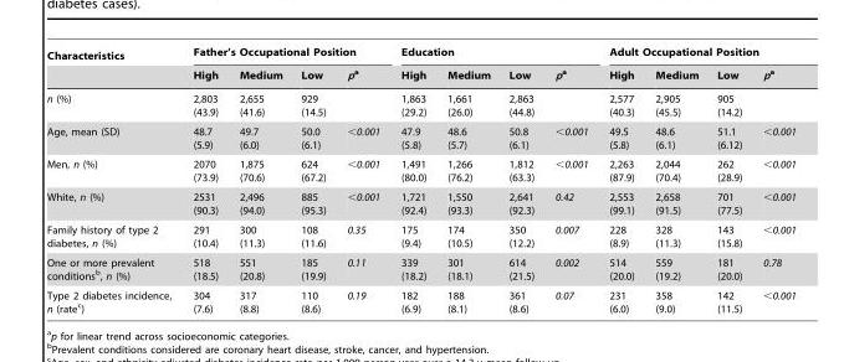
<table><thead><tr><td rowspan="2">Characteristics</td><td colspan="4">Father’s Occupational Position</td><td colspan="4">Education</td><td colspan="4">Adult Occupational Position</td></tr><tr><td>High</td><td>Medium</td><td>Low</td><td>pa</td><td>High</td><td>Medium</td><td>Low</td><td>pa</td><td>High</td><td>Medium</td><td>Low</td><td>pa</td></tr></thead><tbody><tr><td>n (%)</td><td>2,803 (43.9)</td><td>2,655 (41.6)</td><td>929 (14.5)</td><td></td><td>1,863 (29.2)</td><td>1,661 (26.0)</td><td>2,863 (44.8)</td><td></td><td>2,577 (40.3)</td><td>2,905 (45.5)</td><td>905 (14.2)</td><td></td></tr><tr><td>Age, mean (SD)</td><td>48.7 (5.9)</td><td>49.7 (6.0)</td><td>50.0 (6.1)</td><td>&lt;0.001</td><td>47.9 (5.8)</td><td>48.6 (5.7)</td><td>50.8 (6.1)</td><td>&lt;0.001</td><td>49.5 (5.8)</td><td>48.6 (6.1)</td><td>51.1 (6.12)</td><td>&lt;0.001</td></tr><tr><td>Men, n (%)</td><td>2070 (73.9)</td><td>1,875 (70.6)</td><td>624 (67.2)</td><td>&lt;0.001</td><td>1,491 (80.0)</td><td>1,266 (76.2)</td><td>1,812 (63.3)</td><td>&lt;0.001</td><td>2,263 (87.9)</td><td>2,044 (70.4)</td><td>262 (28.9)</td><td>&lt;0.001</td></tr><tr><td>White, n (%)</td><td>2531 (90.3)</td><td>2,496 (94.0)</td><td>885 (95.3)</td><td>&lt;0.001</td><td>1,721 (92.4)</td><td>1,550 (93.3)</td><td>2,641 (92.3)</td><td>0.42</td><td>2,553 (99.1)</td><td>2,658 (91.5)</td><td>701 (77.5)</td><td>&lt;0.001</td></tr><tr><td>Family history of type 2 diabetes, n (%)</td><td>291 (10.4)</td><td>300 (11.3)</td><td>108 (11.6)</td><td>0.35</td><td>175 (9.4)</td><td>174 (10.5)</td><td>350 (12.2)</td><td>0.007</td><td>228 (8.9)</td><td>328 (11.3)</td><td>143 (15.8)</td><td>&lt;0.001</td></tr><tr><td>One or more prevalent conditions<sup>b</sup>, n (%)</td><td>518 (18.5)</td><td>551 (20.8)</td><td>185 (19.9)</td><td>0.11</td><td>339 (18.2)</td><td>301 (18.1)</td><td>614 (21.5)</td><td>0.002</td><td>514 (20.0)</td><td>559 (19.2)</td><td>181 (20.0)</td><td>0.78</td></tr><tr><td>Type 2 diabetes incidence, n (rate<sup>c</sup>)</td><td>304 (7.6)</td><td>317 (8.8)</td><td>110 (8.6)</td><td>0.19</td><td>182 (6.9)</td><td>188 (8.1)</td><td>361 (8.6)</td><td>0.07</td><td>231 (6.0)</td><td>358 (9.0)</td><td>142 (11.5)</td><td>&lt;0.001</td></tr></tbody></table>